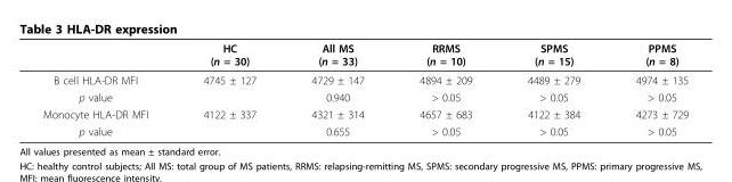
<table><thead><tr><td></td><td>HC (n = 30)</td><td>All MS (n = 33)</td><td>RRMS (n = 10)</td><td>SPMS (n = 15)</td><td>PPMS (n = 8)</td></tr></thead><tbody><tr><td>B cell HLA-DR MFI</td><td>4745 ± 127</td><td>4729 ± 147</td><td>4894 ± 209</td><td>4489 ± 279</td><td>4974 ± 135</td></tr><tr><td>p value</td><td></td><td>0.940</td><td>&gt; 0.05</td><td>&gt; 0.05</td><td>&gt; 0.05</td></tr><tr><td>Monocyte HLA-DR MFI</td><td>4122 ± 337</td><td>4321 ± 314</td><td>4657 ± 683</td><td>4122 ± 384</td><td>4273 ± 729</td></tr><tr><td>p value</td><td></td><td>0.655</td><td>&gt; 0.05</td><td>&gt; 0.05</td><td>&gt; 0.05</td></tr></tbody></table>